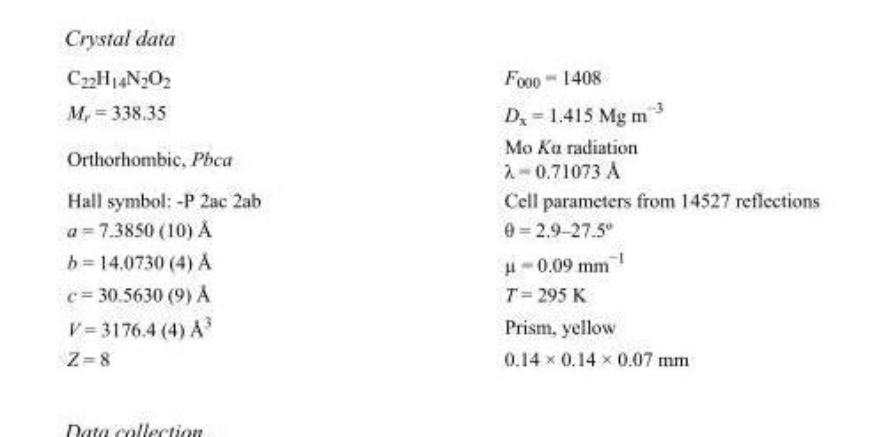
<table><tbody><tr><td>C<sub>22</sub>H<sub>14</sub>N<sub>2</sub>O<sub>2</sub></td><td>F000 = 1408</td></tr><tr><td>M<sub>r</sub> = 338.35</td><td>D<sub>x</sub> = 1.415 Mg m<sup>−3</sup></td></tr><tr><td>Orthorhombic, Pbca</td><td>Mo Kα radiation λ = 0.71073 Å</td></tr><tr><td>Hall symbol: -P 2ac 2ab</td><td>Cell parameters from 14527 reflections</td></tr><tr><td>a = 7.3850 (10) Å</td><td>θ = 2.9–27.5º</td></tr><tr><td>b = 14.0730 (4) Å</td><td>µ = 0.09 mm<sup>−1</sup></td></tr><tr><td>c = 30.5630 (9) Å</td><td>T = 295 K</td></tr><tr><td>V = 3176.4 (4) Å<sup>3</sup></td><td>Prism, yellow</td></tr><tr><td>Z = 8</td><td>0.14 × 0.14 × 0.07 mm</td></tr></tbody></table>